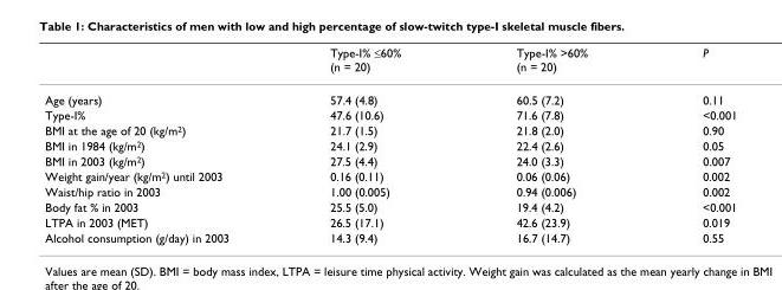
<table><thead><tr><td></td><td>Type-I% ≤60% (n = 20)</td><td>Type-I% &gt;60% (n = 20)</td><td>P</td></tr></thead><tbody><tr><td>Age (years)</td><td>57.4 (4.8)</td><td>60.5 (7.2)</td><td>0.11</td></tr><tr><td>Type-I%</td><td>47.6 (10.6)</td><td>71.6 (7.8)</td><td>&lt;0.001</td></tr><tr><td>BMI at the age of 20 (kg/m<sup>2</sup>)</td><td>21.7 (1.5)</td><td>21.8 (2.0)</td><td>0.90</td></tr><tr><td>BMI in 1984 (kg/m<sup>2</sup>)</td><td>24.1 (2.9)</td><td>22.4 (2.6)</td><td>0.05</td></tr><tr><td>BMI in 2003 (kg/m<sup>2</sup>)</td><td>27.5 (4.4)</td><td>24.0 (3.3)</td><td>0.007</td></tr><tr><td>Weight gain/year (kg/m<sup>2</sup>) until 2003</td><td>0.16 (0.11)</td><td>0.06 (0.06)</td><td>0.002</td></tr><tr><td>Waist/hip ratio in 2003</td><td>1.00 (0.005)</td><td>0.94 (0.006)</td><td>0.002</td></tr><tr><td>Body fat % in 2003</td><td>25.5 (5.0)</td><td>19.4 (4.2)</td><td>&lt;0.001</td></tr><tr><td>LTPA in 2003 (MET)</td><td>26.5 (17.1)</td><td>42.6 (23.9)</td><td>0.019</td></tr><tr><td>Alcohol consumption (g/day) in 2003</td><td>14.3 (9.4)</td><td>16.7 (14.7)</td><td>0.55</td></tr></tbody></table>